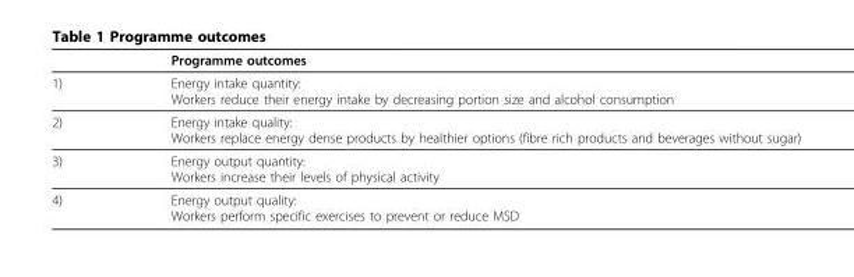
<table><thead><tr><td></td><td>Programme outcomes</td></tr></thead><tbody><tr><td>1)</td><td>Energy intake quantity: Workers reduce their energy intake by decreasing portion size and alcohol consumption</td></tr><tr><td>2)</td><td>Energy intake quality: Workers replace energy dense products by healthier options (fibre rich products and beverages without sugar)</td></tr><tr><td>3)</td><td>Energy output quantity: Workers increase their levels of physical activity</td></tr><tr><td>4)</td><td>Energy output quality: Workers perform specific exercises to prevent or reduce MSD</td></tr></tbody></table>